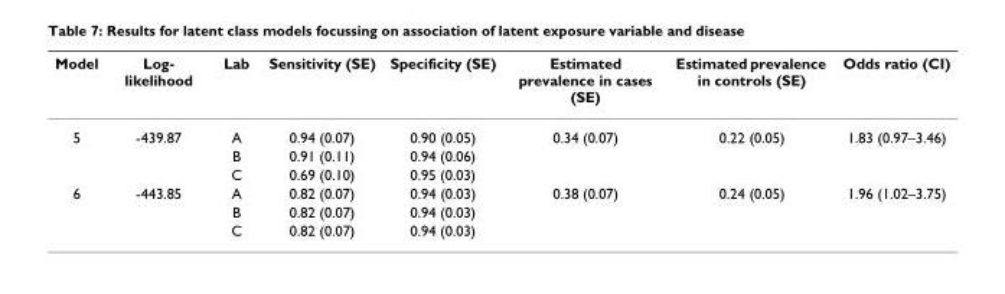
<table><thead><tr><td>Model</td><td>Log- likelihood</td><td>Lab</td><td>Sensitivity (SE)</td><td>Specificity (SE)</td><td>Estimated prevalence in cases (SE)</td><td>Estimated prevalence in controls (SE)</td><td>Odds ratio (CI)</td></tr></thead><tbody><tr><td rowspan="3">5</td><td>-439.87</td><td>A</td><td>0.94 (0.07)</td><td>0.90 (0.05)</td><td>0.34 (0.07)</td><td>0.22 (0.05)</td><td>1.83 (0.97–3.46)</td></tr><tr><td></td><td>B</td><td>0.91 (0.11)</td><td>0.94 (0.06)</td><td></td><td></td><td></td></tr><tr><td></td><td>C</td><td>0.69 (0.10)</td><td>0.95 (0.03)</td><td></td><td></td><td></td></tr><tr><td rowspan="3">6</td><td>-443.85</td><td>A</td><td>0.82 (0.07)</td><td>0.94 (0.03)</td><td>0.38 (0.07)</td><td>0.24 (0.05)</td><td>1.96 (1.02–3.75)</td></tr><tr><td></td><td>B</td><td>0.82 (0.07)</td><td>0.94 (0.03)</td><td></td><td></td><td></td></tr><tr><td></td><td>C</td><td>0.82 (0.07)</td><td>0.94 (0.03)</td><td></td><td></td><td></td></tr></tbody></table>